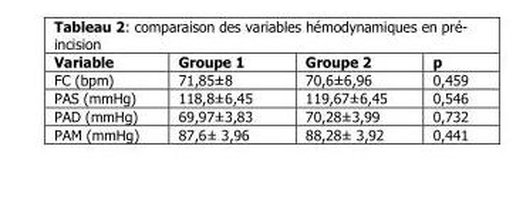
<table><thead><tr><td>Variable</td><td>Groupe 1</td><td>Groupe 2</td><td>p</td></tr></thead><tbody><tr><td>FC (bpm)</td><td>71,85±8</td><td>70,6±6,96</td><td>0,459</td></tr><tr><td>PAS (mmHg)</td><td>118,8±6,45</td><td>119,67±6,45</td><td>0,546</td></tr><tr><td>PAD (mmHg)</td><td>69,97±3,83</td><td>70,28±3,99</td><td>0,732</td></tr><tr><td>PAM (mmHg)</td><td>87,6± 3,96</td><td>88,28± 3,92</td><td>0,441</td></tr></tbody></table>